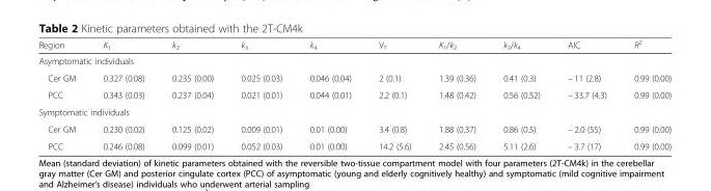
<table><thead><tr><td>Region</td><td>K<sub>1</sub></td><td>k<sub>2</sub></td><td>k<sub>3</sub></td><td>k<sub>4</sub></td><td>V<sub>T</sub></td><td>K<sub>1</sub>/k<sub>2</sub></td><td>k<sub>3</sub>/k<sub>4</sub></td><td>AIC</td><td>R<sup>2</sup></td></tr></thead><tbody><tr><td colspan="10">Asymptomatic individuals</td></tr><tr><td>Cer GM</td><td>0.327 (0.08)</td><td>0.235 (0.00)</td><td>0.025 (0.03)</td><td>0.046 (0.04)</td><td>2 (0.1)</td><td>1.39 (0.36)</td><td>0.41 (0.3)</td><td>– 11 (2.8)</td><td>0.99 (0.00)</td></tr><tr><td>PCC</td><td>0.343 (0.03)</td><td>0.237 (0.04)</td><td>0.021 (0.01)</td><td>0.044 (0.01)</td><td>2.2 (0.1)</td><td>1.48 (0.42)</td><td>0.56 (0.52)</td><td>– 33.7 (4.3)</td><td>0.99 (0.00)</td></tr><tr><td colspan="10">Symptomatic individuals</td></tr><tr><td>Cer GM</td><td>0.230 (0.02)</td><td>0.125 (0.02)</td><td>0.009 (0.01)</td><td>0.01 (0.00)</td><td>3.4 (0.8)</td><td>1.88 (0.37)</td><td>0.86 (0.5)</td><td>– 2.0 (55)</td><td>0.99 (0.00)</td></tr><tr><td>PCC</td><td>0.246 (0.08)</td><td>0.099 (0.01)</td><td>0.052 (0.03)</td><td>0.01 (0.00)</td><td>14.2 (5.6)</td><td>2.45 (0.56)</td><td>5.11 (2.6)</td><td>– 3.7 (17)</td><td>0.99 (0.00)</td></tr></tbody></table>